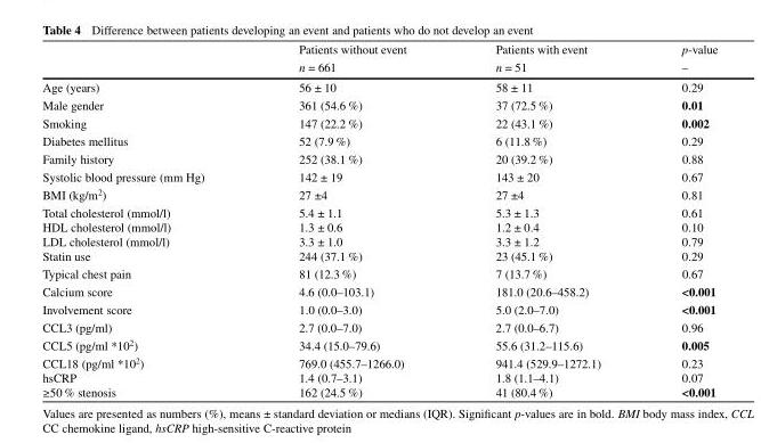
<table><thead><tr><td rowspan="2"></td><td rowspan="2">Patients without event n = 661</td><td rowspan="2">Patients with event n = 51</td><td rowspan="2">p-value –</td></tr><tr></tr></thead><tbody><tr><td>Age (years)</td><td>56 ± 10</td><td>58 ± 11</td><td>0.29</td></tr><tr><td>Male gender</td><td>361 (54.6 %)</td><td>37 (72.5 %)</td><td>0.01</td></tr><tr><td>Smoking</td><td>147 (22.2 %)</td><td>22 (43.1 %)</td><td>0.002</td></tr><tr><td>Diabetes mellitus</td><td>52 (7.9 %)</td><td>6 (11.8 %)</td><td>0.29</td></tr><tr><td>Family history</td><td>252 (38.1 %)</td><td>20 (39.2 %)</td><td>0.88</td></tr><tr><td>Systolic blood pressure (mm Hg)</td><td>142 ± 19</td><td>143 ± 20</td><td>0.67</td></tr><tr><td>BMI (kg/m<sup>2</sup>)</td><td>27 ±4</td><td>27 ±4</td><td>0.81</td></tr><tr><td>Total cholesterol (mmol/l) HDL cholesterol (mmol/l) LDL cholesterol (mmol/l) Statin use</td><td>5.4 ± 1.1 1.3 ± 0.6 3.3 ± 1.0 244 (37.1 %)</td><td>5.3 ± 1.3 1.2 ± 0.4 3.3 ± 1.2 23 (45.1 %)</td><td>0.61 0.10 0.79 0.29</td></tr><tr><td>Typical chest pain</td><td>81 (12.3 %)</td><td>7 (13.7 %)</td><td>0.67</td></tr><tr><td>Calcium score</td><td>4.6 (0.0–103.1)</td><td>181.0 (20.6–458.2)</td><td>&lt;0.001</td></tr><tr><td>Involvement score</td><td>1.0 (0.0–3.0)</td><td>5.0 (2.0–7.0)</td><td>&lt;0.001</td></tr><tr><td>CCL3 (pg/ml)</td><td>2.7 (0.0–7.0)</td><td>2.7 (0.0–6.7)</td><td>0.96</td></tr><tr><td>CCL5 (pg/ml *10<sup>2</sup>)</td><td>34.4 (15.0–79.6)</td><td>55.6 (31.2–115.6)</td><td>0.005</td></tr><tr><td>CCL18 (pg/ml *10<sup>2</sup>) hsCRP ≥50 % stenosis</td><td>769.0 (455.7–1266.0) 1.4 (0.7–3.1) 162 (24.5 %)</td><td>941.4 (529.9–1272.1) 1.8 (1.1–4.1) 41 (80.4 %)</td><td>0.23 0.07 &lt;0.001</td></tr></tbody></table>